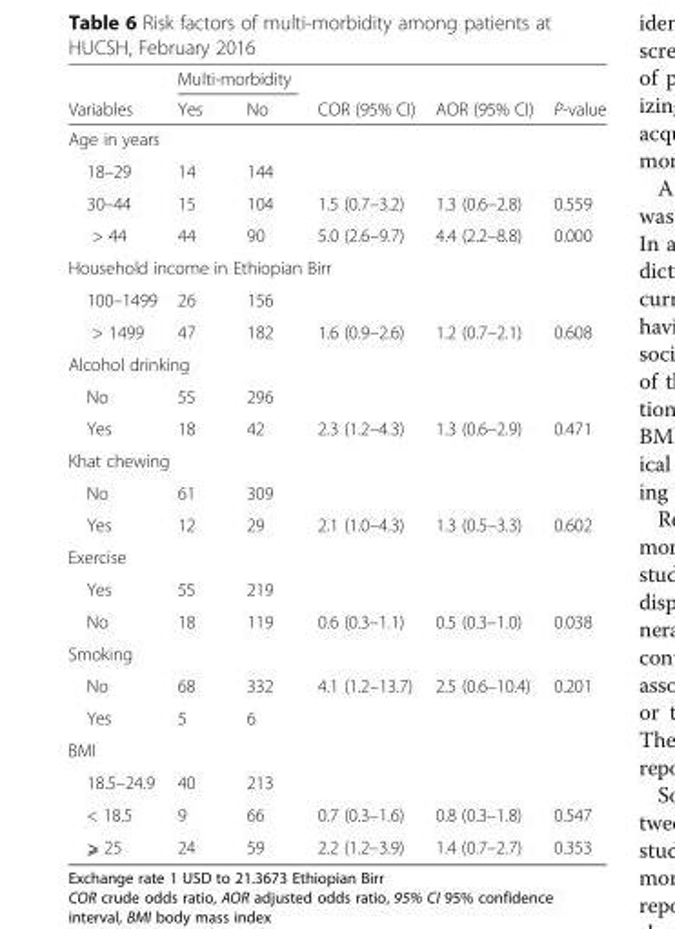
<table><thead><tr><td rowspan="2">Variables</td><td colspan="2">Multi-morbidity</td><td rowspan="2">COR (95% CI)</td><td rowspan="2">AOR (95% CI)</td><td rowspan="2">P-value</td></tr><tr><td>Yes</td><td>No</td></tr></thead><tbody><tr><td colspan="6">Age in years</td></tr><tr><td>18–29</td><td>14</td><td>144</td><td></td><td></td><td></td></tr><tr><td>30–44</td><td>15</td><td>104</td><td>1.5 (0.7–3.2)</td><td>1.3 (0.6–2.8)</td><td>0.559</td></tr><tr><td>&gt; 44</td><td>44</td><td>90</td><td>5.0 (2.6–9.7)</td><td>4.4 (2.2–8.8)</td><td>0.000</td></tr><tr><td colspan="6">Household income in Ethiopian Birr</td></tr><tr><td>100–1499</td><td>26</td><td>156</td><td></td><td></td><td></td></tr><tr><td>&gt; 1499</td><td>47</td><td>182</td><td>1.6 (0.9–2.6)</td><td>1.2 (0.7–2.1)</td><td>0.608</td></tr><tr><td colspan="6">Alcohol drinking</td></tr><tr><td>No</td><td>55</td><td>296</td><td></td><td></td><td></td></tr><tr><td>Yes</td><td>18</td><td>42</td><td>2.3 (1.2–4.3)</td><td>1.3 (0.6–2.9)</td><td>0.471</td></tr><tr><td colspan="6">Khat chewing</td></tr><tr><td>No</td><td>61</td><td>309</td><td></td><td></td><td></td></tr><tr><td>Yes</td><td>12</td><td>29</td><td>2.1 (1.0–4.3)</td><td>1.3 (0.5–3.3)</td><td>0.602</td></tr><tr><td colspan="6">Exercise</td></tr><tr><td>Yes</td><td>55</td><td>219</td><td></td><td></td><td></td></tr><tr><td>No</td><td>18</td><td>119</td><td>0.6 (0.3–1.1)</td><td>0.5 (0.3–1.0)</td><td>0.038</td></tr><tr><td colspan="6">Smoking</td></tr><tr><td>No</td><td>68</td><td>332</td><td>4.1 (1.2–13.7)</td><td>2.5 (0.6–10.4)</td><td>0.201</td></tr><tr><td>Yes</td><td>5</td><td>6</td><td></td><td></td><td></td></tr><tr><td colspan="6">BMI</td></tr><tr><td>18.5–24.9</td><td>40</td><td>213</td><td></td><td></td><td></td></tr><tr><td>&lt; 18.5</td><td>9</td><td>66</td><td>0.7 (0.3–1.6)</td><td>0.8 (0.3–1.8)</td><td>0.547</td></tr><tr><td>⩾ 25</td><td>24</td><td>59</td><td>2.2 (1.2–3.9)</td><td>1.4 (0.7–2.7)</td><td>0.353</td></tr></tbody></table>